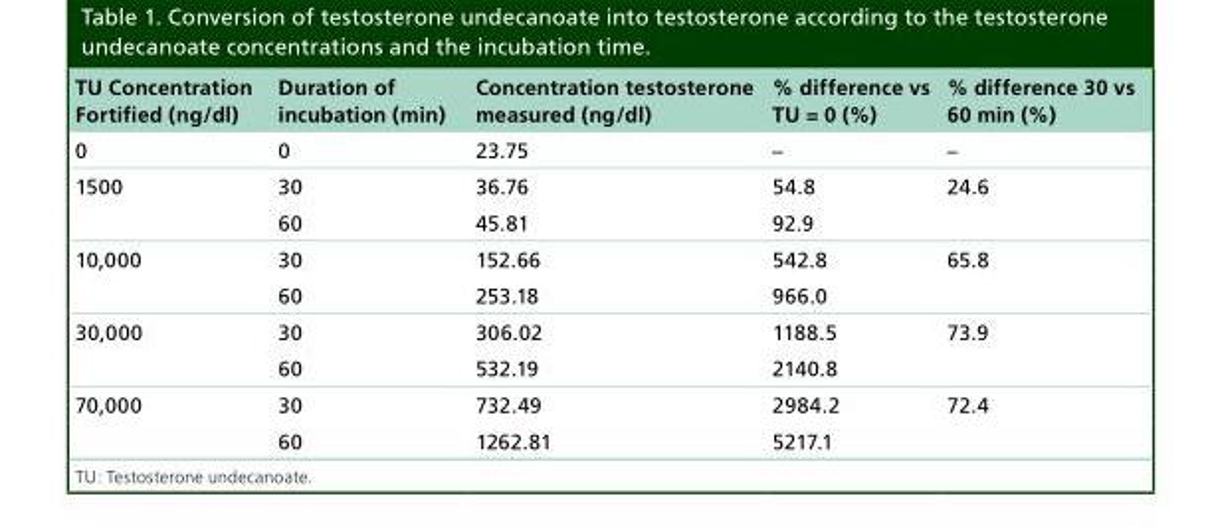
<table><thead><tr><td>TU Concentration Fortified (ng/dl)</td><td>Duration of incubation (min)</td><td>Concentration testosterone measured (ng/dl)</td><td>% difference vs TU = 0 (%)</td><td>% difference 30 vs 60 min (%)</td></tr></thead><tbody><tr><td>0</td><td>0</td><td>23.75</td><td>–</td><td>–</td></tr><tr><td rowspan="2">1500</td><td>30</td><td>36.76</td><td>54.8</td><td>24.6</td></tr><tr><td>60</td><td>45.81</td><td>92.9</td><td></td></tr><tr><td rowspan="2">10,000</td><td>30</td><td>152.66</td><td>542.8</td><td>65.8</td></tr><tr><td>60</td><td>253.18</td><td>966.0</td><td></td></tr><tr><td rowspan="2">30,000</td><td>30</td><td>306.02</td><td>1188.5</td><td>73.9</td></tr><tr><td>60</td><td>532.19</td><td>2140.8</td><td></td></tr><tr><td rowspan="2">70,000</td><td>30</td><td>732.49</td><td>2984.2</td><td>72.4</td></tr><tr><td>60</td><td>1262.81</td><td>5217.1</td><td></td></tr></tbody></table>